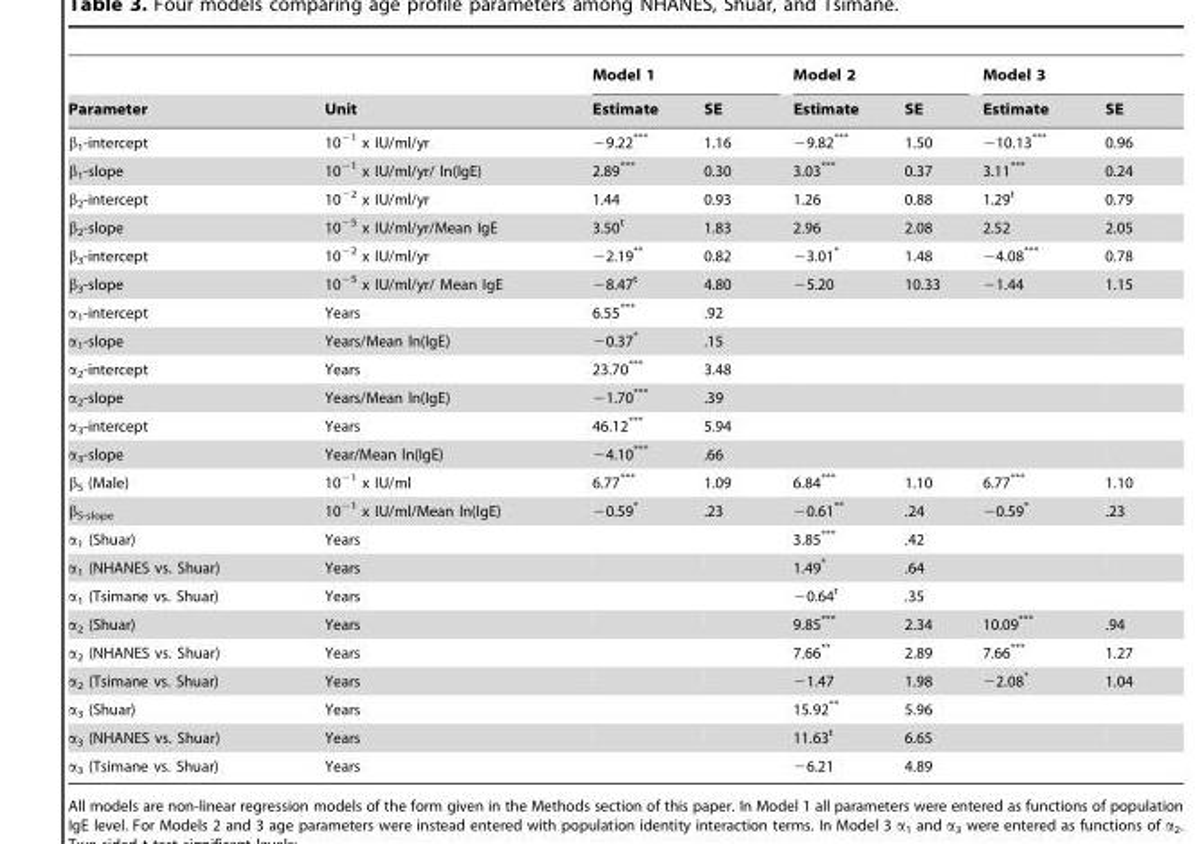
<table><thead><tr><td rowspan="2">Parameter</td><td rowspan="2">Unit</td><td colspan="2">Model 1</td><td colspan="2">Model 2</td><td colspan="2">Model 3</td></tr><tr><td>Estimate</td><td>SE</td><td>Estimate</td><td>SE</td><td>Estimate</td><td>SE</td></tr></thead><tbody><tr><td>β<sub>1</sub>-intercept</td><td>10<sup>−1</sup> x IU/ml/yr</td><td>−9.22***</td><td>1.16</td><td>−9.82***</td><td>1.50</td><td>−10.13***</td><td>0.96</td></tr><tr><td>β<sub>1</sub>-slope</td><td>10<sup>−1</sup> x IU/ml/yr/ ln(IgE)</td><td>2.89***</td><td>0.30</td><td>3.03***</td><td>0.37</td><td>3.11***</td><td>0.24</td></tr><tr><td>β<sub>2</sub>-intercept</td><td>10<sup>−2</sup> x IU/ml/yr</td><td>1.44</td><td>0.93</td><td>1.26</td><td>0.88</td><td>1.29<sup>t</sup></td><td>0.79</td></tr><tr><td>β<sub>2</sub>-slope</td><td>10<sup>−5</sup> x IU/ml/yr/Mean IgE</td><td>3.50<sup>t</sup></td><td>1.83</td><td>2.96</td><td>2.08</td><td>2.52</td><td>2.05</td></tr><tr><td>β<sub>3</sub>-intercept</td><td>10<sup>−2</sup> x IU/ml/yr</td><td>−2.19**</td><td>0.82</td><td>−3.01*</td><td>1.48</td><td>−4.08***</td><td>0.78</td></tr><tr><td>β<sub>3</sub>-slope</td><td>10<sup>−5</sup> x IU/ml/yr/ Mean IgE</td><td>−8.47<sup>t</sup></td><td>4.80</td><td>−5.20</td><td>10.33</td><td>−1.44</td><td>1.15</td></tr><tr><td>α<sub>1</sub>-intercept</td><td>Years</td><td>6.55***</td><td>.92</td><td></td><td></td><td></td><td></td></tr><tr><td>α<sub>1</sub>-slope</td><td>Years/Mean ln(IgE)</td><td>−0.37*</td><td>.15</td><td></td><td></td><td></td><td></td></tr><tr><td>α<sub>2</sub>-intercept</td><td>Years</td><td>23.70***</td><td>3.48</td><td></td><td></td><td></td><td></td></tr><tr><td>α<sub>2</sub>-slope</td><td>Years/Mean ln(IgE)</td><td>−1.70***</td><td>.39</td><td></td><td></td><td></td><td></td></tr><tr><td>α<sub>3</sub>-intercept</td><td>Years</td><td>46.12***</td><td>5.94</td><td></td><td></td><td></td><td></td></tr><tr><td>α<sub>3</sub>-slope</td><td>Year/Mean ln(IgE)</td><td>−4.10***</td><td>.66</td><td></td><td></td><td></td><td></td></tr><tr><td>β<sub>S</sub> (Male)</td><td>10<sup>−1</sup> x IU/ml</td><td>6.77***</td><td>1.09</td><td>6.84***</td><td>1.10</td><td>6.77***</td><td>1.10</td></tr><tr><td>β<sub>S-slope</sub></td><td>10<sup>−1</sup> x IU/ml/Mean ln(IgE)</td><td>−0.59*</td><td>.23</td><td>−0.61**</td><td>.24</td><td>−0.59*</td><td>.23</td></tr><tr><td>α<sub>1</sub> (Shuar)</td><td>Years</td><td></td><td></td><td>3.85***</td><td>.42</td><td></td><td></td></tr><tr><td>α<sub>1</sub> (NHANES vs. Shuar)</td><td>Years</td><td></td><td></td><td>1.49*</td><td>.64</td><td></td><td></td></tr><tr><td>α<sub>1</sub> (Tsimane vs. Shuar)</td><td>Years</td><td></td><td></td><td>−0.64<sup>t</sup></td><td>.35</td><td></td><td></td></tr><tr><td>α<sub>2</sub> (Shuar)</td><td>Years</td><td></td><td></td><td>9.85***</td><td>2.34</td><td>10.09***</td><td>.94</td></tr><tr><td>α<sub>2</sub> (NHANES vs. Shuar)</td><td>Years</td><td></td><td></td><td>7.66**</td><td>2.89</td><td>7.66***</td><td>1.27</td></tr><tr><td>α<sub>2</sub> (Tsimane vs. Shuar)</td><td>Years</td><td></td><td></td><td>−1.47</td><td>1.98</td><td>−2.08*</td><td>1.04</td></tr><tr><td>α<sub>3</sub> (Shuar)</td><td>Years</td><td></td><td></td><td>15.92**</td><td>5.96</td><td></td><td></td></tr><tr><td>α<sub>3</sub> (NHANES vs. Shuar)</td><td>Years</td><td></td><td></td><td>11.63<sup>t</sup></td><td>6.65</td><td></td><td></td></tr><tr><td>α<sub>3</sub> (Tsimane vs. Shuar)</td><td>Years</td><td></td><td></td><td>−6.21</td><td>4.89</td><td></td><td></td></tr></tbody></table>